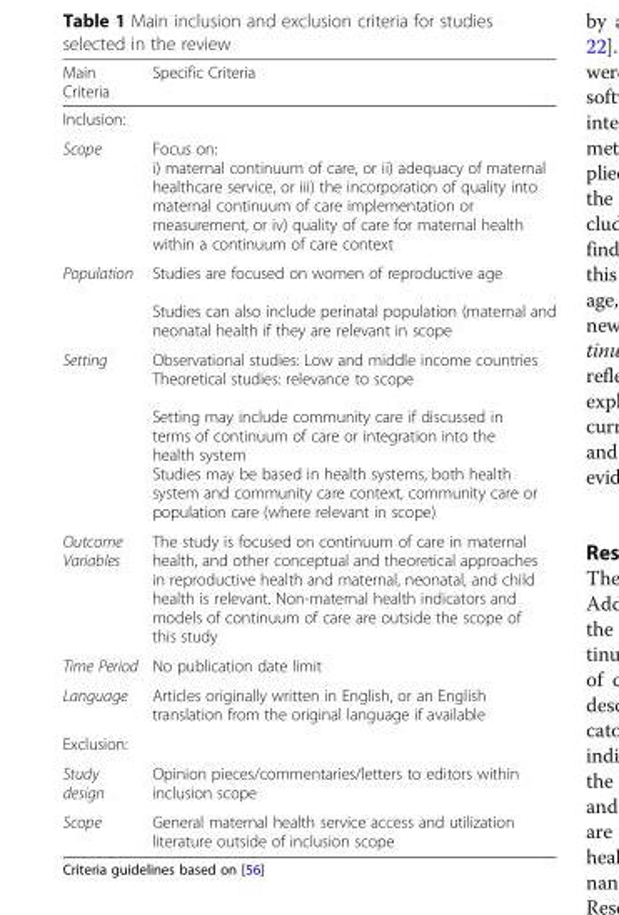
<table><thead><tr><td>Main Criteria</td><td>Specific Criteria</td></tr></thead><tbody><tr><td colspan="2">Inclusion:</td></tr><tr><td>Scope</td><td>Focus on: i) maternal continuum of care, or ii) adequacy of maternal healthcare service, or iii) the incorporation of quality into maternal continuum of care implementation or measurement, or iv) quality of care for maternal health within a continuum of care context</td></tr><tr><td>Population</td><td>Studies are focused on women of reproductive age Studies can also include perinatal population (maternal and neonatal health if they are relevant in scope</td></tr><tr><td>Setting</td><td>Observational studies: Low and middle income countries Theoretical studies: relevance to scope Setting may include community care if discussed in terms of continuum of care or integration into the health system Studies may be based in health systems, both health system and community care context, community care or population care (where relevant in scope)</td></tr><tr><td>Outcome Variables</td><td>The study is focused on continuum of care in maternal health, and other conceptual and theoretical approaches in reproductive health and maternal, neonatal, and child health is relevant. Non-maternal health indicators and models of continuum of care are outside the scope of this study</td></tr><tr><td>Time Period</td><td>No publication date limit</td></tr><tr><td>Language</td><td>Articles originally written in English, or an English translation from the original language if available</td></tr><tr><td colspan="2">Exclusion:</td></tr><tr><td>Study design</td><td>Opinion pieces/commentaries/letters to editors within inclusion scope</td></tr><tr><td>Scope</td><td>General maternal health service access and utilization literature outside of inclusion scope</td></tr></tbody></table>